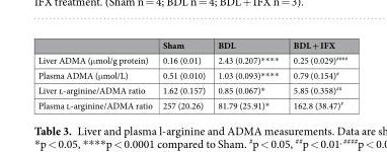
<table><thead><tr><td></td><td>Sham</td><td>BDL</td><td>BDL + IFX</td></tr></thead><tbody><tr><td>Liver ADMA (μmol/g protein)</td><td>0.16 (0.01)</td><td>2.43 (0.207)****</td><td>0.25 (0.029)<sup>####</sup></td></tr><tr><td>Plasma ADMA (μmol/L)</td><td>0.51 (0.010)</td><td>1.03 (0.093)****</td><td>0.79 (0.154)<sup>#</sup></td></tr><tr><td>Liver l-arginine/ADMA ratio</td><td>1.62 (0.157)</td><td>0.85 (0.067)*</td><td>5.85 (0.358)<sup>##</sup></td></tr><tr><td>Plasma l-arginine/ADMA ratio</td><td>257 (20.26)</td><td>81.79 (25.91)*</td><td>162.8 (38.47)<sup>#</sup></td></tr></tbody></table>